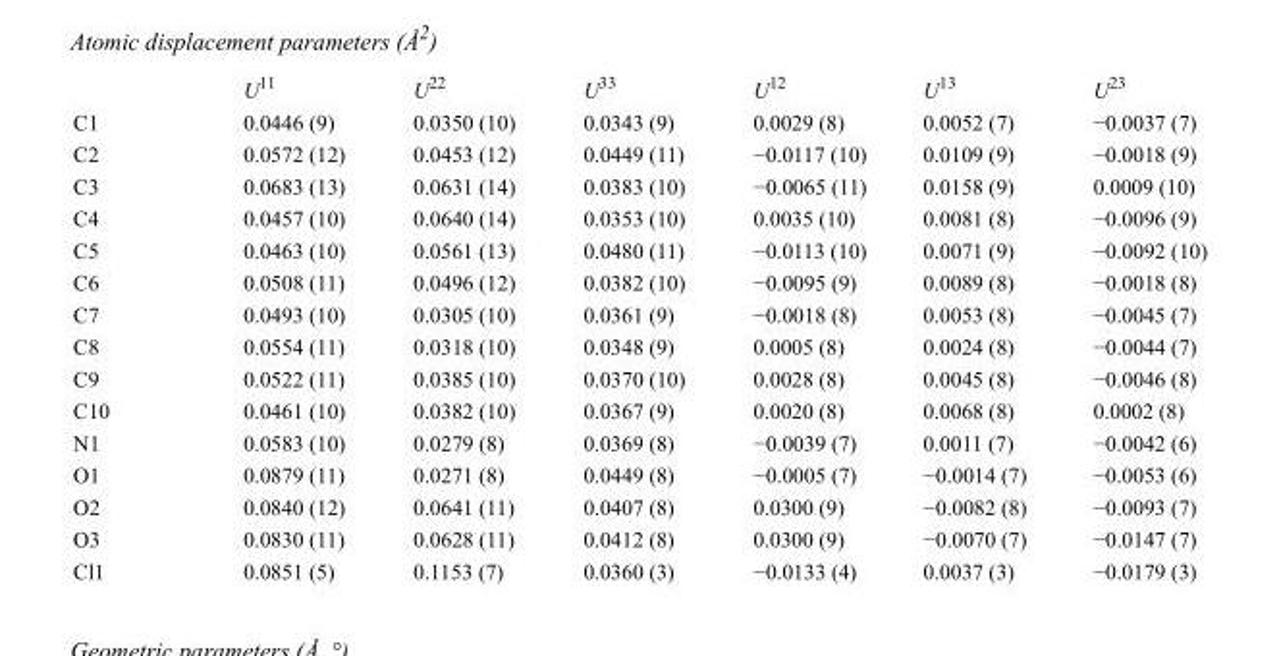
<table><thead><tr><td></td><td>U<sup>11</sup></td><td>U<sup>22</sup></td><td>U<sup>33</sup></td><td>U<sup>12</sup></td><td>U<sup>13</sup></td><td>U<sup>23</sup></td></tr></thead><tbody><tr><td>C1</td><td>0.0446 (9)</td><td>0.0350 (10)</td><td>0.0343 (9)</td><td>0.0029 (8)</td><td>0.0052 (7)</td><td>−0.0037 (7)</td></tr><tr><td>C2</td><td>0.0572 (12)</td><td>0.0453 (12)</td><td>0.0449 (11)</td><td>−0.0117 (10)</td><td>0.0109 (9)</td><td>−0.0018 (9)</td></tr><tr><td>C3</td><td>0.0683 (13)</td><td>0.0631 (14)</td><td>0.0383 (10)</td><td>−0.0065 (11)</td><td>0.0158 (9)</td><td>0.0009 (10)</td></tr><tr><td>C4</td><td>0.0457 (10)</td><td>0.0640 (14)</td><td>0.0353 (10)</td><td>0.0035 (10)</td><td>0.0081 (8)</td><td>−0.0096 (9)</td></tr><tr><td>C5</td><td>0.0463 (10)</td><td>0.0561 (13)</td><td>0.0480 (11)</td><td>−0.0113 (10)</td><td>0.0071 (9)</td><td>−0.0092 (10)</td></tr><tr><td>C6</td><td>0.0508 (11)</td><td>0.0496 (12)</td><td>0.0382 (10)</td><td>−0.0095 (9)</td><td>0.0089 (8)</td><td>−0.0018 (8)</td></tr><tr><td>C7</td><td>0.0493 (10)</td><td>0.0305 (10)</td><td>0.0361 (9)</td><td>−0.0018 (8)</td><td>0.0053 (8)</td><td>−0.0045 (7)</td></tr><tr><td>C8</td><td>0.0554 (11)</td><td>0.0318 (10)</td><td>0.0348 (9)</td><td>0.0005 (8)</td><td>0.0024 (8)</td><td>−0.0044 (7)</td></tr><tr><td>C9</td><td>0.0522 (11)</td><td>0.0385 (10)</td><td>0.0370 (10)</td><td>0.0028 (8)</td><td>0.0045 (8)</td><td>−0.0046 (8)</td></tr><tr><td>C10</td><td>0.0461 (10)</td><td>0.0382 (10)</td><td>0.0367 (9)</td><td>0.0020 (8)</td><td>0.0068 (8)</td><td>0.0002 (8)</td></tr><tr><td>N1</td><td>0.0583 (10)</td><td>0.0279 (8)</td><td>0.0369 (8)</td><td>−0.0039 (7)</td><td>0.0011 (7)</td><td>−0.0042 (6)</td></tr><tr><td>O1</td><td>0.0879 (11)</td><td>0.0271 (8)</td><td>0.0449 (8)</td><td>−0.0005 (7)</td><td>−0.0014 (7)</td><td>−0.0053 (6)</td></tr><tr><td>O2</td><td>0.0840 (12)</td><td>0.0641 (11)</td><td>0.0407 (8)</td><td>0.0300 (9)</td><td>−0.0082 (8)</td><td>−0.0093 (7)</td></tr><tr><td>O3</td><td>0.0830 (11)</td><td>0.0628 (11)</td><td>0.0412 (8)</td><td>0.0300 (9)</td><td>−0.0070 (7)</td><td>−0.0147 (7)</td></tr><tr><td>Cl1</td><td>0.0851 (5)</td><td>0.1153 (7)</td><td>0.0360 (3)</td><td>−0.0133 (4)</td><td>0.0037 (3)</td><td>−0.0179 (3)</td></tr></tbody></table>